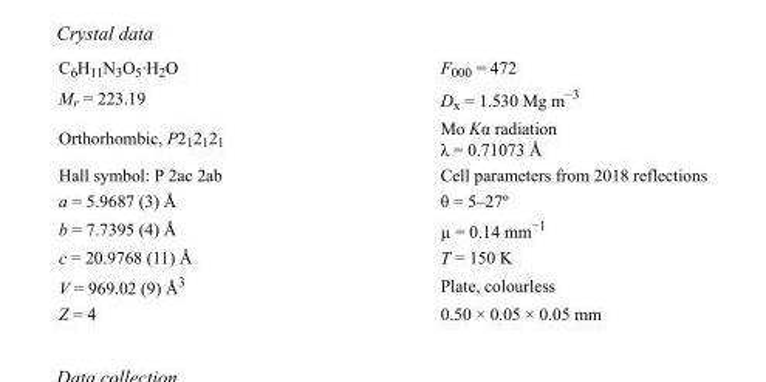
<table><tbody><tr><td>C<sub>6</sub>H<sub>11</sub>N<sub>3</sub>O<sub>5</sub>·H<sub>2</sub>O</td><td>F<sub>000</sub> = 472</td></tr><tr><td>M<sub>r</sub> = 223.19</td><td>D<sub>x</sub> = 1.530 Mg m<sup>−3</sup></td></tr><tr><td>Orthorhombic, P2<sub>1</sub>2<sub>1</sub>2<sub>1</sub></td><td>Mo Kα radiation λ = 0.71073 Å</td></tr><tr><td>Hall symbol: P 2ac 2ab</td><td>Cell parameters from 2018 reflections</td></tr><tr><td>a = 5.9687 (3) Å</td><td>θ = 5–27º</td></tr><tr><td>b = 7.7395 (4) Å</td><td>µ = 0.14 mm<sup>−1</sup></td></tr><tr><td>c = 20.9768 (11) Å</td><td>T = 150 K</td></tr><tr><td>V = 969.02 (9) Å<sup>3</sup></td><td>Plate, colourless</td></tr><tr><td>Z = 4</td><td>0.50 × 0.05 × 0.05 mm</td></tr></tbody></table>